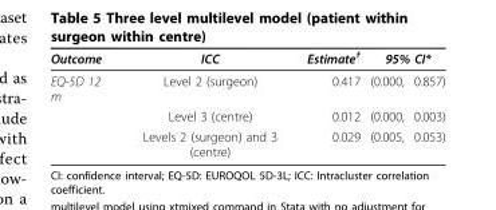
<table><thead><tr><td rowspan="2">Outcome EQ-5D 12 m</td><td rowspan="2">ICC Level 2 (surgeon)</td><td rowspan="2">Estimate<sup>†</sup> 0.417</td><td colspan="2">95% CI*</td></tr><tr><td>(0.000,</td><td>0.857)</td></tr></thead><tbody><tr><td></td><td>Level 3 (centre)</td><td>0.012</td><td>(0.000,</td><td>0.003)</td></tr><tr><td></td><td>Levels 2 (surgeon) and 3 (centre)</td><td>0.029</td><td>(0.005,</td><td>0.053)</td></tr></tbody></table>